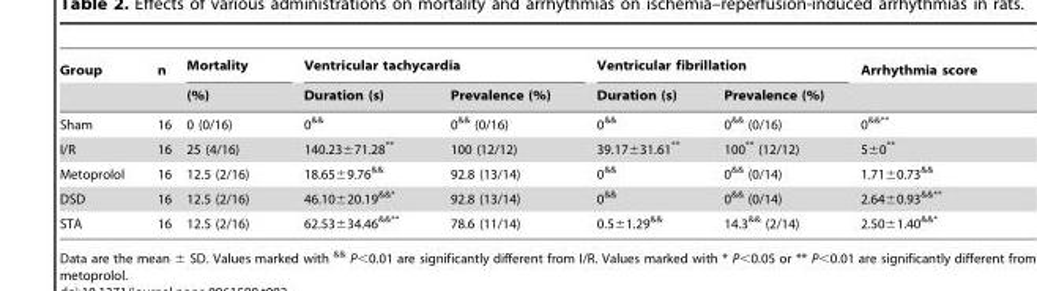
<table><thead><tr><td rowspan="2">Group</td><td rowspan="2">n</td><td rowspan="2">Mortality (%)</td><td colspan="2">Ventricular tachycardia</td><td colspan="2">Ventricular fibrillation</td><td rowspan="2">Arrhythmia score</td></tr><tr><td>Duration (s)</td><td>Prevalence (%)</td><td>Duration (s)</td><td>Prevalence (%)</td></tr></thead><tbody><tr><td>Sham</td><td>16</td><td>0 (0/16)</td><td>0<sup>&amp;&amp;</sup></td><td>0<sup>&amp;&amp;</sup> (0/16)</td><td>0<sup>&amp;&amp;</sup></td><td>0<sup>&amp;&amp;</sup> (0/16)</td><td>0<sup>&amp;&amp;**</sup></td></tr><tr><td>I/R</td><td>16</td><td>25 (4/16)</td><td>140.23±71.28**</td><td>100 (12/12)</td><td>39.17±31.61**</td><td>100** (12/12)</td><td>5±0**</td></tr><tr><td>Metoprolol</td><td>16</td><td>12.5 (2/16)</td><td>18.65±9.76<sup>&amp;&amp;</sup></td><td>92.8 (13/14)</td><td>0<sup>&amp;&amp;</sup></td><td>0<sup>&amp;&amp;</sup> (0/14)</td><td>1.71±0.73<sup>&amp;&amp;</sup></td></tr><tr><td>DSD</td><td>16</td><td>12.5 (2/16)</td><td>46.10±20.19<sup>&amp;&amp;*</sup></td><td>92.8 (13/14)</td><td>0<sup>&amp;&amp;</sup></td><td>0<sup>&amp;&amp;</sup> (0/14)</td><td>2.64±0.93<sup>&amp;&amp;**</sup></td></tr><tr><td>STA</td><td>16</td><td>12.5 (2/16)</td><td>62.53±34.46<sup>&amp;&amp;**</sup></td><td>78.6 (11/14)</td><td>0.5±1.29<sup>&amp;&amp;</sup></td><td>14.3<sup>&amp;&amp;</sup> (2/14)</td><td>2.50±1.40<sup>&amp;&amp;*</sup></td></tr></tbody></table>